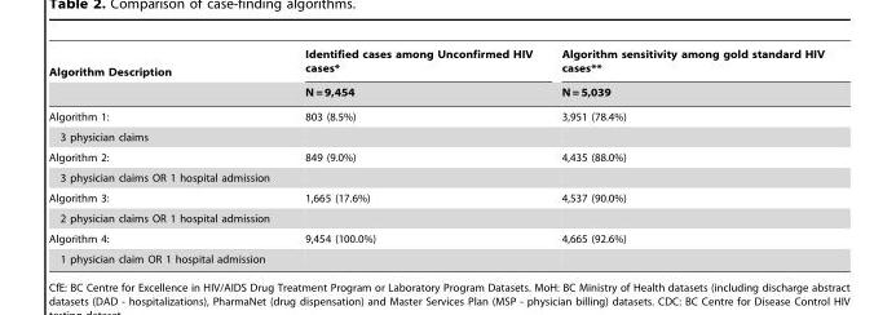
<table><thead><tr><td rowspan="2">Algorithm Description</td><td rowspan="2">Identified cases among Unconfirmed HIV cases* N = 9,454</td><td rowspan="2">Algorithm sensitivity among gold standard HIV cases** N = 5,039</td></tr><tr></tr></thead><tbody><tr><td>Algorithm 1:</td><td>803 (8.5%)</td><td>3,951 (78.4%)</td></tr><tr><td colspan="3">3 physician claims</td></tr><tr><td>Algorithm 2:</td><td>849 (9.0%)</td><td>4,435 (88.0%)</td></tr><tr><td colspan="3">3 physician claims OR 1 hospital admission</td></tr><tr><td>Algorithm 3:</td><td>1,665 (17.6%)</td><td>4,537 (90.0%)</td></tr><tr><td colspan="3">2 physician claims OR 1 hospital admission</td></tr><tr><td>Algorithm 4:</td><td>9,454 (100.0%)</td><td>4,665 (92.6%)</td></tr><tr><td>1 physician claim OR 1 hospital admission</td><td></td><td></td></tr></tbody></table>